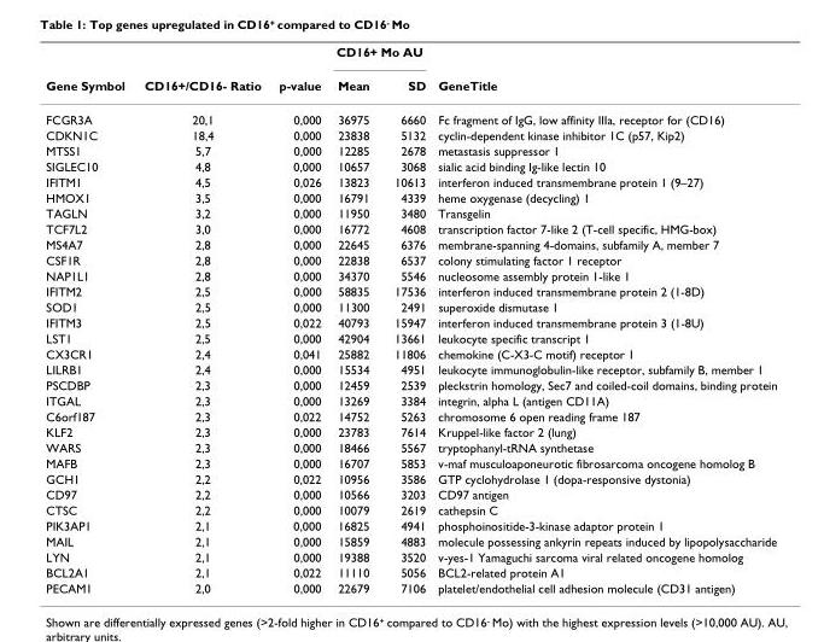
<table><thead><tr><td rowspan="2">Gene Symbol</td><td rowspan="2">CD16+/CD16- Ratio</td><td rowspan="2">p-value</td><td colspan="2">CD16+ Mo AU</td><td rowspan="2">GeneTitle</td></tr><tr><td>Mean</td><td>SD</td></tr></thead><tbody><tr><td>FCGR3A</td><td>20,1</td><td>0,000</td><td>36975</td><td>6660</td><td>Fc fragment of IgG, low affinity IIIa, receptor for (CD16)</td></tr><tr><td>CDKN1C</td><td>18,4</td><td>0,000</td><td>23838</td><td>5132</td><td>cyclin-dependent kinase inhibitor 1C (p57, Kip2)</td></tr><tr><td>MTSS1</td><td>5,7</td><td>0,000</td><td>12285</td><td>2678</td><td>metastasis suppressor 1</td></tr><tr><td>SIGLEC10</td><td>4,8</td><td>0,000</td><td>10657</td><td>3068</td><td>sialic acid binding Ig-like lectin 10</td></tr><tr><td>IFITM1</td><td>4,5</td><td>0,026</td><td>13823</td><td>10613</td><td>interferon induced transmembrane protein 1 (9–27)</td></tr><tr><td>HMOX1</td><td>3,5</td><td>0,000</td><td>16791</td><td>4339</td><td>heme oxygenase (decycling) 1</td></tr><tr><td>TAGLN</td><td>3,2</td><td>0,000</td><td>11950</td><td>3480</td><td>Transgelin</td></tr><tr><td>TCF7L2</td><td>3,0</td><td>0,000</td><td>16772</td><td>4608</td><td>transcription factor 7-like 2 (T-cell specific, HMG-box)</td></tr><tr><td>MS4A7</td><td>2,8</td><td>0,000</td><td>22645</td><td>6376</td><td>membrane-spanning 4-domains, subfamily A, member 7</td></tr><tr><td>CSF1R</td><td>2,8</td><td>0,000</td><td>22838</td><td>6537</td><td>colony stimulating factor 1 receptor</td></tr><tr><td>NAP1L1</td><td>2,8</td><td>0,000</td><td>34370</td><td>5546</td><td>nucleosome assembly protein 1-like 1</td></tr><tr><td>IFITM2</td><td>2,5</td><td>0,000</td><td>58835</td><td>17536</td><td>interferon induced transmembrane protein 2 (1-8D)</td></tr><tr><td>SOD1</td><td>2,5</td><td>0,000</td><td>11300</td><td>2491</td><td>superoxide dismutase 1</td></tr><tr><td>IFITM3</td><td>2,5</td><td>0,022</td><td>40793</td><td>15947</td><td>interferon induced transmembrane protein 3 (1-8U)</td></tr><tr><td>LST1</td><td>2,5</td><td>0,000</td><td>42904</td><td>13661</td><td>leukocyte specific transcript 1</td></tr><tr><td>CX3CR1</td><td>2,4</td><td>0,041</td><td>25882</td><td>11806</td><td>chemokine (C-X3-C motif) receptor 1</td></tr><tr><td>LILRB1</td><td>2,4</td><td>0,000</td><td>15534</td><td>4951</td><td>leukocyte immunoglobulin-like receptor, subfamily B, member 1</td></tr><tr><td>PSCDBP</td><td>2,3</td><td>0,000</td><td>12459</td><td>2539</td><td>pleckstrin homology, Sec7 and coiled-coil domains, binding protein</td></tr><tr><td>ITGAL</td><td>2,3</td><td>0,000</td><td>13269</td><td>3384</td><td>integrin, alpha L (antigen CD11A)</td></tr><tr><td>C6orf187</td><td>2,3</td><td>0,022</td><td>14752</td><td>5263</td><td>chromosome 6 open reading frame 187</td></tr><tr><td>KLF2</td><td>2,3</td><td>0,000</td><td>23783</td><td>7614</td><td>Kruppel-like factor 2 (lung)</td></tr><tr><td>WARS</td><td>2,3</td><td>0,000</td><td>18466</td><td>5567</td><td>tryptophanyl-tRNA synthetase</td></tr><tr><td>MAFB</td><td>2,3</td><td>0,000</td><td>16707</td><td>5853</td><td>v-maf musculoaponeurotic fibrosarcoma oncogene homolog B</td></tr><tr><td>GCH1</td><td>2,2</td><td>0,022</td><td>10956</td><td>3586</td><td>GTP cyclohydrolase 1 (dopa-responsive dystonia)</td></tr><tr><td>CD97</td><td>2,2</td><td>0,000</td><td>10566</td><td>3203</td><td>CD97 antigen</td></tr><tr><td>CTSC</td><td>2,2</td><td>0,000</td><td>10079</td><td>2619</td><td>cathepsin C</td></tr><tr><td>PIK3AP1</td><td>2,1</td><td>0,000</td><td>16825</td><td>4941</td><td>phosphoinositide-3-kinase adaptor protein 1</td></tr><tr><td>MAIL</td><td>2,1</td><td>0,000</td><td>15859</td><td>4883</td><td>molecule possessing ankyrin repeats induced by lipopolysaccharide</td></tr><tr><td>LYN</td><td>2,1</td><td>0,000</td><td>19388</td><td>3520</td><td>v-yes-1 Yamaguchi sarcoma viral related oncogene homolog</td></tr><tr><td>BCL2A1</td><td>2,1</td><td>0,022</td><td>11110</td><td>5056</td><td>BCL2-related protein A1</td></tr><tr><td>PECAM1</td><td>2,0</td><td>0,000</td><td>22679</td><td>7106</td><td>platelet/endothelial cell adhesion molecule (CD31 antigen)</td></tr></tbody></table>